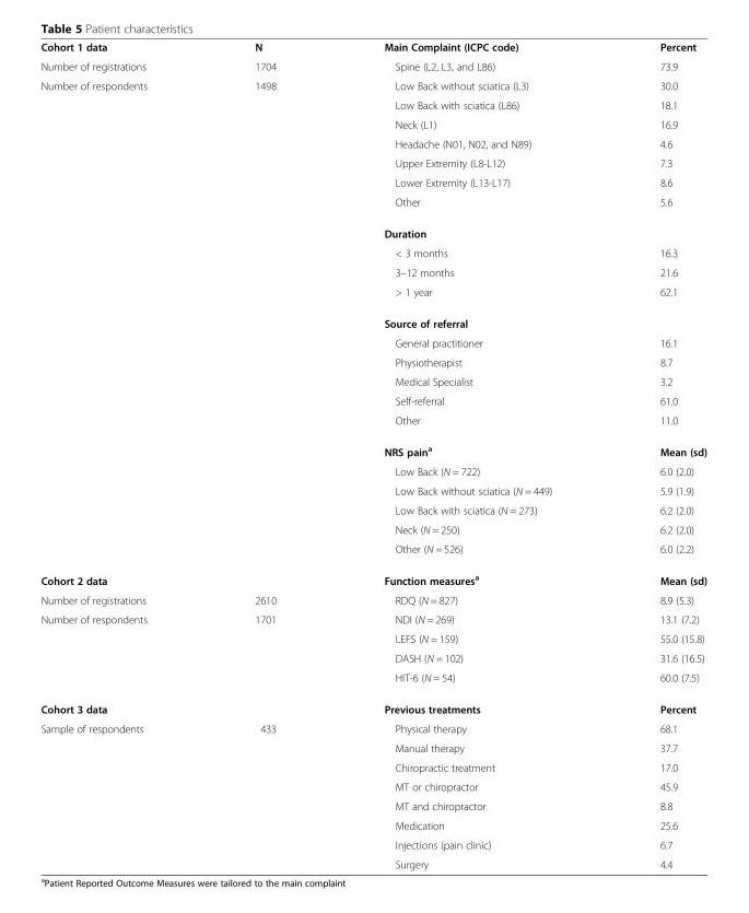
<table><tbody><tr><td>Cohort 1 data</td><td>N</td><td>Main Complaint (ICPC code)</td><td>Percent</td></tr><tr><td>Number of registrations</td><td>1704</td><td>Spine (L2, L3, and L86)</td><td>73.9</td></tr><tr><td rowspan="23">Number of respondents</td><td>1498</td><td>Low Back without sciatica (L3)</td><td>30.0</td></tr><tr><td></td><td>Low Back with sciatica (L86)</td><td>18.1</td></tr><tr><td></td><td>Neck (L1)</td><td>16.9</td></tr><tr><td></td><td>Headache (N01, N02, and N89)</td><td>4.6</td></tr><tr><td></td><td>Upper Extremity (L8-L12)</td><td>7.3</td></tr><tr><td></td><td>Lower Extremity (L13-L17)</td><td>8.6</td></tr><tr><td></td><td>Other</td><td>5.6</td></tr><tr><td></td><td>Duration</td><td></td></tr><tr><td></td><td>&lt; 3 months</td><td>16.3</td></tr><tr><td></td><td>3–12 months</td><td>21.6</td></tr><tr><td></td><td>&gt; 1 year</td><td>62.1</td></tr><tr><td></td><td>Source of referral</td><td></td></tr><tr><td></td><td>General practitioner</td><td>16.1</td></tr><tr><td></td><td>Physiotherapist</td><td>8.7</td></tr><tr><td></td><td>Medical Specialist</td><td>3.2</td></tr><tr><td></td><td>Self-referral</td><td>61.0</td></tr><tr><td></td><td>Other</td><td>11.0</td></tr><tr><td></td><td>NRS pain<sup>a</sup></td><td>Mean (sd)</td></tr><tr><td></td><td>Low Back (N = 722)</td><td>6.0 (2.0)</td></tr><tr><td></td><td>Low Back without sciatica (N = 449)</td><td>5.9 (1.9)</td></tr><tr><td></td><td>Low Back with sciatica (N = 273)</td><td>6.2 (2.0)</td></tr><tr><td></td><td>Neck (N = 250)</td><td>6.2 (2.0)</td></tr><tr><td></td><td>Other (N = 526)</td><td>6.0 (2.2)</td></tr><tr><td>Cohort 2 data</td><td></td><td>Function measures<sup>a</sup></td><td>Mean (sd)</td></tr><tr><td>Number of registrations</td><td>2610</td><td>RDQ (N = 827)</td><td>8.9 (5.3)</td></tr><tr><td rowspan="4">Number of respondents</td><td>1701</td><td>NDI (N = 269)</td><td>13.1 (7.2)</td></tr><tr><td></td><td>LEFS (N = 159)</td><td>55.0 (15.8)</td></tr><tr><td></td><td>DASH (N = 102)</td><td>31.6 (16.5)</td></tr><tr><td></td><td>HIT-6 (N = 54)</td><td>60.0 (7.5)</td></tr><tr><td>Cohort 3 data</td><td></td><td>Previous treatments</td><td>Percent</td></tr><tr><td rowspan="8">Sample of respondents</td><td>433</td><td>Physical therapy</td><td>68.1</td></tr><tr><td></td><td>Manual therapy</td><td>37.7</td></tr><tr><td></td><td>Chiropractic treatment</td><td>17.0</td></tr><tr><td></td><td>MT or chiropractor</td><td>45.9</td></tr><tr><td></td><td>MT and chiropractor</td><td>8.8</td></tr><tr><td></td><td>Medication</td><td>25.6</td></tr><tr><td></td><td>Injections (pain clinic)</td><td>6.7</td></tr><tr><td></td><td>Surgery</td><td>4.4</td></tr></tbody></table>